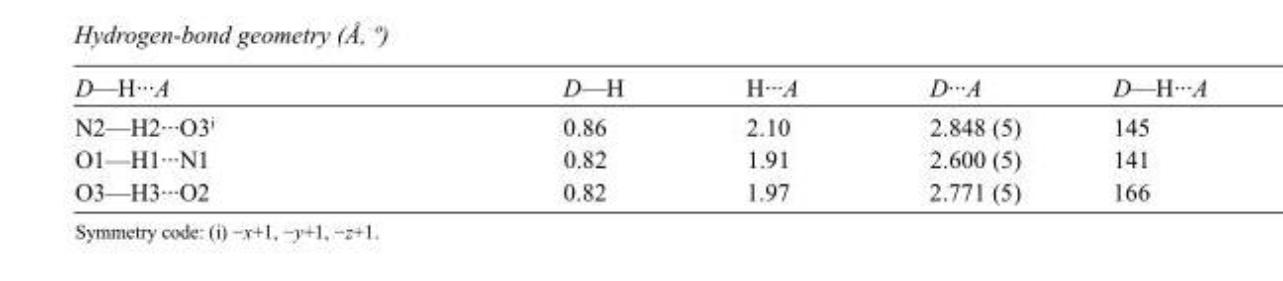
<table><tbody><tr><td>D—H···A</td><td>D—H</td><td>H···A</td><td>D···A</td><td>D—H···A</td></tr><tr><td>N2—H2···O3<sup>i</sup></td><td>0.86</td><td>2.10</td><td>2.848 (5)</td><td>145</td></tr><tr><td>O1—H1···N1</td><td>0.82</td><td>1.91</td><td>2.600 (5)</td><td>141</td></tr><tr><td>O3—H3···O2</td><td>0.82</td><td>1.97</td><td>2.771 (5)</td><td>166</td></tr></tbody></table>